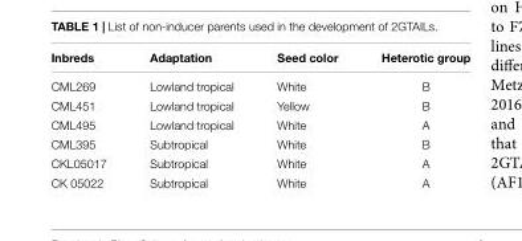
<table><thead><tr><td>Inbreds</td><td>Adaptation</td><td>Seed color</td><td>Heterotic group</td></tr></thead><tbody><tr><td>CML269</td><td>Lowland tropical</td><td>White</td><td>B</td></tr><tr><td>CML451</td><td>Lowland tropical</td><td>Yellow</td><td>B</td></tr><tr><td>CML495</td><td>Lowland tropical</td><td>White</td><td>A</td></tr><tr><td>CML395</td><td>Subtropical</td><td>White</td><td>B</td></tr><tr><td>CKL05017</td><td>Subtropical</td><td>White</td><td>A</td></tr><tr><td>CK 05022</td><td>Subtropical</td><td>White</td><td>A</td></tr></tbody></table>